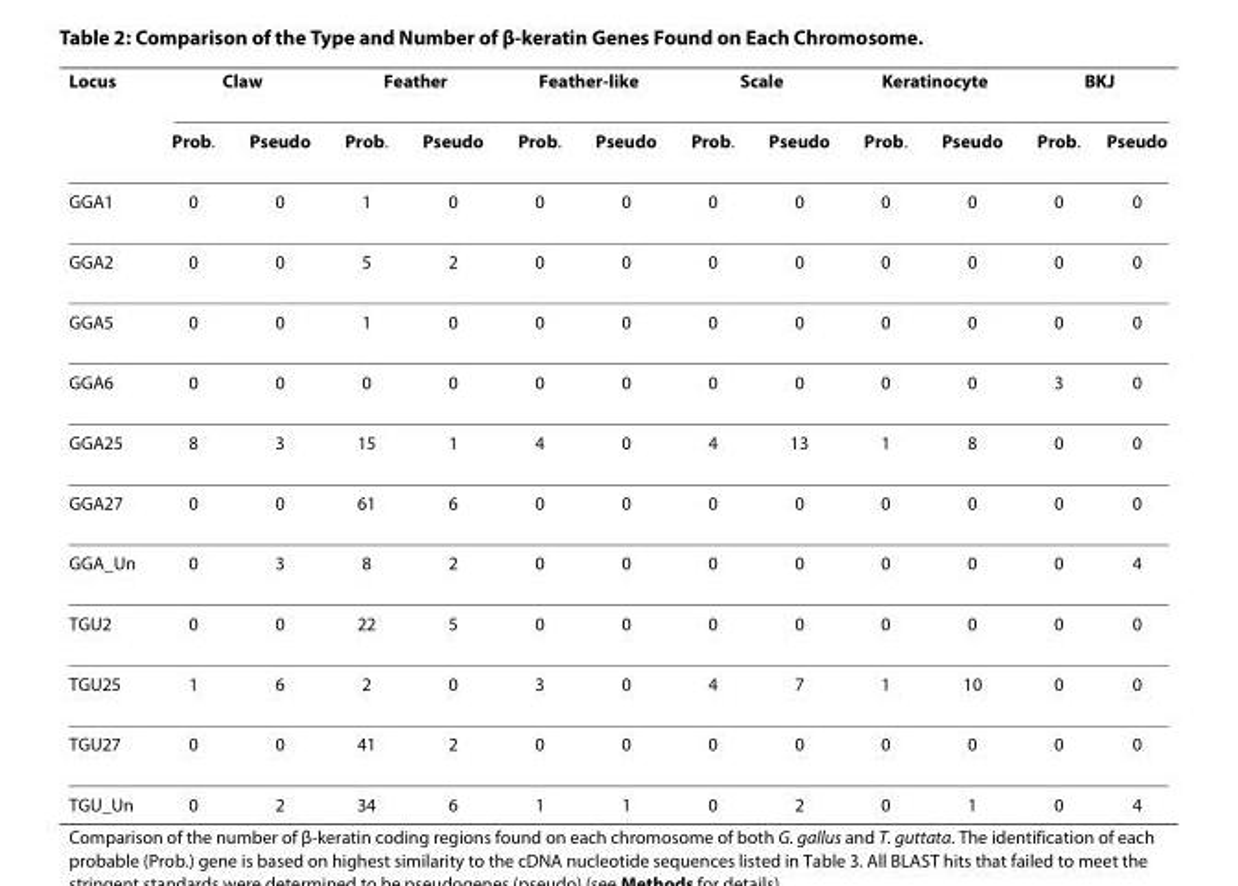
<table><thead><tr><td rowspan="2">Locus</td><td colspan="2">Claw</td><td colspan="2">Feather</td><td colspan="2">Feather-like</td><td colspan="2">Scale</td><td colspan="2">Keratinocyte</td><td colspan="2">BKJ</td></tr><tr><td>Prob.</td><td>Pseudo</td><td>Prob.</td><td>Pseudo</td><td>Prob.</td><td>Pseudo</td><td>Prob.</td><td>Pseudo</td><td>Prob.</td><td>Pseudo</td><td>Prob.</td><td>Pseudo</td></tr></thead><tbody><tr><td>GGA1</td><td>0</td><td>0</td><td>1</td><td>0</td><td>0</td><td>0</td><td>0</td><td>0</td><td>0</td><td>0</td><td>0</td><td>0</td></tr><tr><td>GGA2</td><td>0</td><td>0</td><td>5</td><td>2</td><td>0</td><td>0</td><td>0</td><td>0</td><td>0</td><td>0</td><td>0</td><td>0</td></tr><tr><td>GGA5</td><td>0</td><td>0</td><td>1</td><td>0</td><td>0</td><td>0</td><td>0</td><td>0</td><td>0</td><td>0</td><td>0</td><td>0</td></tr><tr><td>GGA6</td><td>0</td><td>0</td><td>0</td><td>0</td><td>0</td><td>0</td><td>0</td><td>0</td><td>0</td><td>0</td><td>3</td><td>0</td></tr><tr><td>GGA25</td><td>8</td><td>3</td><td>15</td><td>1</td><td>4</td><td>0</td><td>4</td><td>13</td><td>1</td><td>8</td><td>0</td><td>0</td></tr><tr><td>GGA27</td><td>0</td><td>0</td><td>61</td><td>6</td><td>0</td><td>0</td><td>0</td><td>0</td><td>0</td><td>0</td><td>0</td><td>0</td></tr><tr><td>GGA_Un</td><td>0</td><td>3</td><td>8</td><td>2</td><td>0</td><td>0</td><td>0</td><td>0</td><td>0</td><td>0</td><td>0</td><td>4</td></tr><tr><td>TGU2</td><td>0</td><td>0</td><td>22</td><td>5</td><td>0</td><td>0</td><td>0</td><td>0</td><td>0</td><td>0</td><td>0</td><td>0</td></tr><tr><td>TGU25</td><td>1</td><td>6</td><td>2</td><td>0</td><td>3</td><td>0</td><td>4</td><td>7</td><td>1</td><td>10</td><td>0</td><td>0</td></tr><tr><td>TGU27</td><td>0</td><td>0</td><td>41</td><td>2</td><td>0</td><td>0</td><td>0</td><td>0</td><td>0</td><td>0</td><td>0</td><td>0</td></tr><tr><td>TGU_Un</td><td>0</td><td>2</td><td>34</td><td>6</td><td>1</td><td>1</td><td>0</td><td>2</td><td>0</td><td>1</td><td>0</td><td>4</td></tr></tbody></table>